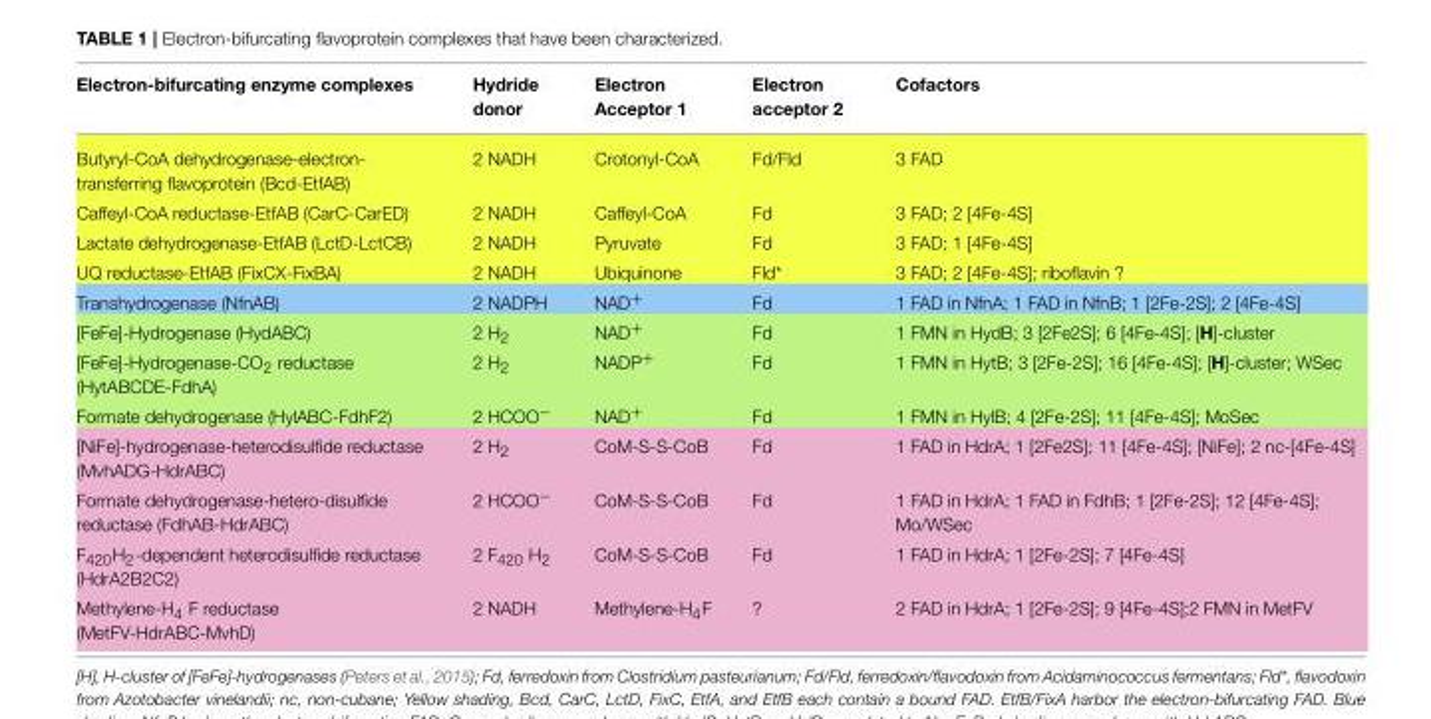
<table><thead><tr><td>Electron-bifurcating enzyme complexes</td><td>Hydride donor</td><td>Electron Acceptor 1</td><td>Electron acceptor 2</td><td>Cofactors</td></tr></thead><tbody><tr><td>Butyryl-CoA dehydrogenase-electron- transferring flavoprotein (Bcd-EtfAB)</td><td>2 NADH</td><td>Crotonyl-CoA</td><td>Fd/Fld</td><td>3 FAD</td></tr><tr><td>Caffeyl-CoA reductase-EtfAB (CarC-CarED)</td><td>2 NADH</td><td>Caffeyl-CoA</td><td>Fd</td><td>3 FAD; 2 [4Fe-4S]</td></tr><tr><td>Lactate dehydrogenase-EtfAB (LctD-LctCB)</td><td>2 NADH</td><td>Pyruvate</td><td>Fd</td><td>3 FAD; 1 [4Fe-4S]</td></tr><tr><td>UQ reductase-EtfAB (FixCX-FixBA)</td><td>2 NADH</td><td>Ubiquinone</td><td>Fld*</td><td>3 FAD; 2 [4Fe-4S]; riboflavin ?</td></tr><tr><td>Transhydrogenase (NfnAB)</td><td>2 NADPH</td><td>NAD<sup>+</sup></td><td>Fd</td><td>1 FAD in NfnA; 1 FAD in NfnB; 1 [2Fe-2S]; 2 [4Fe-4S]</td></tr><tr><td>[FeFe]-Hydrogenase (HydABC)</td><td>2 H<sub>2</sub></td><td>NAD<sup>+</sup></td><td>Fd</td><td>1 FMN in HydB; 3 [2Fe2S]; 6 [4Fe-4S]; [H]-cluster</td></tr><tr><td>[FeFe]-Hydrogenase-CO<sub>2</sub> reductase (HytABCDE-FdhA)</td><td>2 H<sub>2</sub></td><td>NADP<sup>+</sup></td><td>Fd</td><td>1 FMN in HytB; 3 [2Fe-2S]; 16 [4Fe-4S]; [H]-cluster; WSec</td></tr><tr><td>Formate dehydrogenase (HylABC-FdhF2)</td><td>2 HCOO<sup>−</sup></td><td>NAD<sup>+</sup></td><td>Fd</td><td>1 FMN in HylB; 4 [2Fe-2S]; 11 [4Fe-4S]; MoSec</td></tr><tr><td>[NiFe]-hydrogenase-heterodisulfide reductase (MvhADG-HdrABC)</td><td>2 H<sub>2</sub></td><td>CoM-S-S-CoB</td><td>Fd</td><td>1 FAD in HdrA; 1 [2Fe2S]; 11 [4Fe-4S]; [NiFe]; 2 nc-[4Fe-4S]</td></tr><tr><td>Formate dehydrogenase-hetero-disulfide reductase (FdhAB-HdrABC)</td><td>2 HCOO<sup>−</sup></td><td>CoM-S-S-CoB</td><td>Fd</td><td>1 FAD in HdrA; 1 FAD in FdhB; 1 [2Fe-2S]; 12 [4Fe-4S]; Mo/WSec</td></tr><tr><td>F<sub>420</sub>H<sub>2</sub>-dependent heterodisulfide reductase (HdrA2B2C2)</td><td>2 F<sub>420</sub> H<sub>2</sub></td><td>CoM-S-S-CoB</td><td>Fd</td><td>1 FAD in HdrA; 1 [2Fe-2S]; 7 [4Fe-4S]</td></tr><tr><td>Methylene-H<sub>4</sub> F reductase (MetFV-HdrABC-MvhD)</td><td>2 NADH</td><td>Methylene-H<sub>4</sub>F</td><td>?</td><td>2 FAD in HdrA; 1 [2Fe-2S]; 9 [4Fe-4S];2 FMN in MetFV</td></tr></tbody></table>